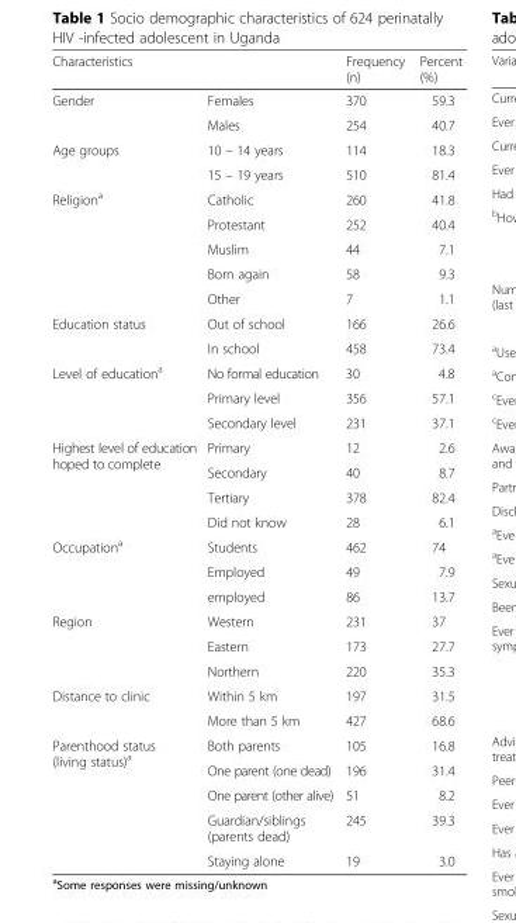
<table><thead><tr><td>Characteristics</td><td></td><td>Frequency (n)</td><td>Percent (%)</td></tr></thead><tbody><tr><td rowspan="2">Gender</td><td>Females</td><td>370</td><td>59.3</td></tr><tr><td>Males</td><td>254</td><td>40.7</td></tr><tr><td rowspan="2">Age groups</td><td>10 – 14 years</td><td>114</td><td>18.3</td></tr><tr><td>15 – 19 years</td><td>510</td><td>81.4</td></tr><tr><td rowspan="5">Religion<sup>a</sup></td><td>Catholic</td><td>260</td><td>41.8</td></tr><tr><td>Protestant</td><td>252</td><td>40.4</td></tr><tr><td>Muslim</td><td>44</td><td>7.1</td></tr><tr><td>Born again</td><td>58</td><td>9.3</td></tr><tr><td>Other</td><td>7</td><td>1.1</td></tr><tr><td rowspan="2">Education status</td><td>Out of school</td><td>166</td><td>26.6</td></tr><tr><td>In school</td><td>458</td><td>73.4</td></tr><tr><td rowspan="3">Level of education<sup>a</sup></td><td>No formal education</td><td>30</td><td>4.8</td></tr><tr><td>Primary level</td><td>356</td><td>57.1</td></tr><tr><td>Secondary level</td><td>231</td><td>37.1</td></tr><tr><td rowspan="4">Highest level of education hoped to complete</td><td>Primary</td><td>12</td><td>2.6</td></tr><tr><td>Secondary</td><td>40</td><td>8.7</td></tr><tr><td>Tertiary</td><td>378</td><td>82.4</td></tr><tr><td>Did not know</td><td>28</td><td>6.1</td></tr><tr><td rowspan="3">Occupation<sup>a</sup></td><td>Students</td><td>462</td><td>74</td></tr><tr><td>Employed</td><td>49</td><td>7.9</td></tr><tr><td>employed</td><td>86</td><td>13.7</td></tr><tr><td rowspan="3">Region</td><td>Western</td><td>231</td><td>37</td></tr><tr><td>Eastern</td><td>173</td><td>27.7</td></tr><tr><td>Northern</td><td>220</td><td>35.3</td></tr><tr><td rowspan="2">Distance to clinic</td><td>Within 5 km</td><td>197</td><td>31.5</td></tr><tr><td>More than 5 km</td><td>427</td><td>68.6</td></tr><tr><td rowspan="5">Parenthood status (living status)<sup>a</sup></td><td>Both parents</td><td>105</td><td>16.8</td></tr><tr><td>One parent (one dead)</td><td>196</td><td>31.4</td></tr><tr><td>One parent (other alive)</td><td>51</td><td>8.2</td></tr><tr><td>Guardian/siblings (parents dead)</td><td>245</td><td>39.3</td></tr><tr><td>Staying alone</td><td>19</td><td>3.0</td></tr></tbody></table>